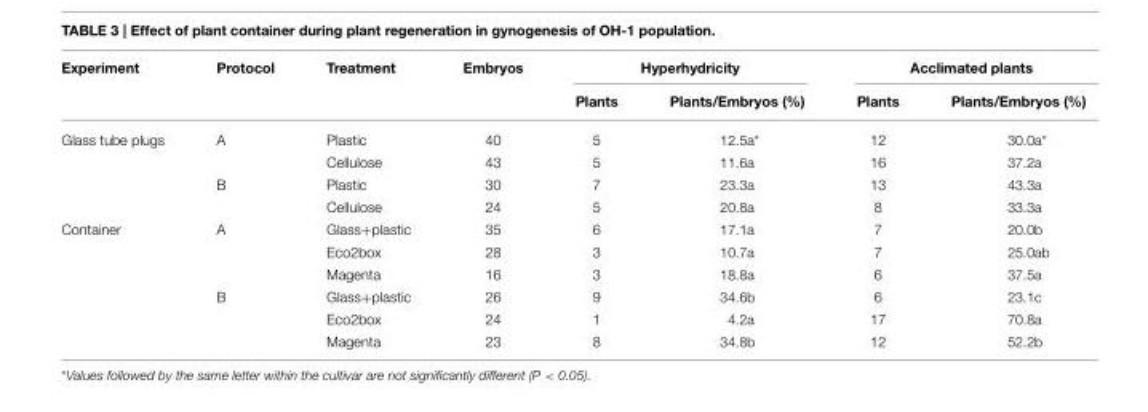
<table><thead><tr><td rowspan="2">Experiment</td><td rowspan="2">Protocol</td><td rowspan="2">Treatment</td><td rowspan="2">Embryos</td><td colspan="2">Hyperhydricity</td><td colspan="2">Acclimated plants</td></tr><tr><td>Plants</td><td>Plants/Embryos (%)</td><td>Plants</td><td>Plants/Embryos (%)</td></tr></thead><tbody><tr><td rowspan="4">Glass tube plugs</td><td>A</td><td>Plastic</td><td>40</td><td>5</td><td>12.5a*</td><td>12</td><td>30.0a*</td></tr><tr><td></td><td>Cellulose</td><td>43</td><td>5</td><td>11.6a</td><td>16</td><td>37.2a</td></tr><tr><td>B</td><td>Plastic</td><td>30</td><td>7</td><td>23.3a</td><td>13</td><td>43.3a</td></tr><tr><td></td><td>Cellulose</td><td>24</td><td>5</td><td>20.8a</td><td>8</td><td>33.3a</td></tr><tr><td rowspan="6">Container</td><td>A</td><td>Glass+plastic</td><td>35</td><td>6</td><td>17.1a</td><td>7</td><td>20.0b</td></tr><tr><td></td><td>Eco2box</td><td>28</td><td>3</td><td>10.7a</td><td>7</td><td>25.0ab</td></tr><tr><td></td><td>Magenta</td><td>16</td><td>3</td><td>18.8a</td><td>6</td><td>37.5a</td></tr><tr><td>B</td><td>Glass+plastic</td><td>26</td><td>9</td><td>34.6b</td><td>6</td><td>23.1c</td></tr><tr><td></td><td>Eco2box</td><td>24</td><td>1</td><td>4.2a</td><td>17</td><td>70.8a</td></tr><tr><td></td><td>Magenta</td><td>23</td><td>8</td><td>34.8b</td><td>12</td><td>52.2b</td></tr></tbody></table>